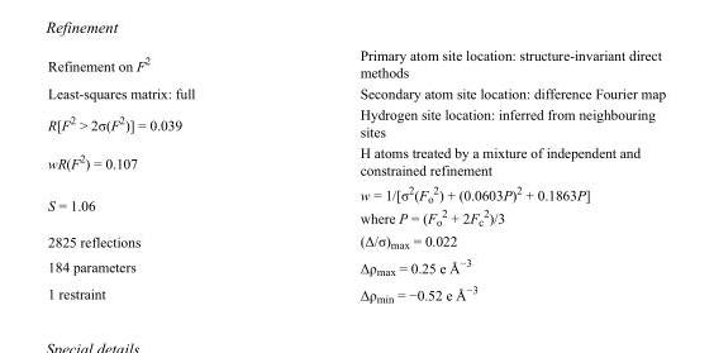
<table><tbody><tr><td>Refinement on F<sup>2</sup></td><td>Primary atom site location: structure-invariant direct methods</td></tr><tr><td>Least-squares matrix: full</td><td>Secondary atom site location: difference Fourier map</td></tr><tr><td>R[F<sup>2</sup> &gt; 2σ(F<sup>2</sup>)] = 0.039</td><td>Hydrogen site location: inferred from neighbouring sites</td></tr><tr><td>wR(F<sup>2</sup>) = 0.107</td><td>H atoms treated by a mixture of independent and constrained refinement</td></tr><tr><td>S = 1.06</td><td>w = 1/[σ<sup>2</sup>(F<sub>o</sub> <sup>2</sup>) + (0.0603P)<sup>2</sup> + 0.1863P] where P = (F<sub>o</sub> <sup>2</sup> + 2F<sub>c</sub> <sup>2</sup>)/3</td></tr><tr><td>2825 reflections</td><td>(Δ/σ)<sub>max</sub> = 0.022</td></tr><tr><td>184 parameters</td><td>Δρ<sub>max</sub> = 0.25 e Å<sup>−3</sup></td></tr><tr><td>1 restraint</td><td>Δρ<sub>min</sub> = −0.52 e Å<sup>−3</sup></td></tr></tbody></table>